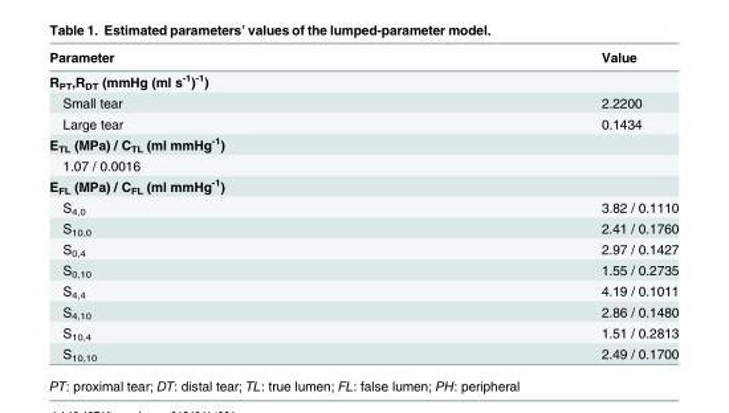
<table><thead><tr><td>Parameter</td><td>Value</td></tr></thead><tbody><tr><td colspan="2">R<sub>PT</sub>,R<sub>DT</sub> (mmHg (ml s<sup>-1</sup>)<sup>-1</sup>)</td></tr><tr><td>Small tear</td><td>2.2200</td></tr><tr><td>Large tear</td><td>0.1434</td></tr><tr><td colspan="2">E<sub>TL</sub> (MPa) / C<sub>TL</sub> (ml mmHg<sup>-1</sup>)</td></tr><tr><td colspan="2">1.07 / 0.0016</td></tr><tr><td colspan="2">E<sub>FL</sub> (MPa) / C<sub>FL</sub> (ml mmHg<sup>-1</sup>)</td></tr><tr><td>S<sub>4,0</sub></td><td>3.82 / 0.1110</td></tr><tr><td>S<sub>10,0</sub></td><td>2.41 / 0.1760</td></tr><tr><td>S<sub>0,4</sub></td><td>2.97 / 0.1427</td></tr><tr><td>S<sub>0,10</sub></td><td>1.55 / 0.2735</td></tr><tr><td>S<sub>4,4</sub></td><td>4.19 / 0.1011</td></tr><tr><td>S<sub>4,10</sub></td><td>2.86 / 0.1480</td></tr><tr><td>S<sub>10,4</sub></td><td>1.51 / 0.2813</td></tr><tr><td>S<sub>10,10</sub></td><td>2.49 / 0.1700</td></tr></tbody></table>